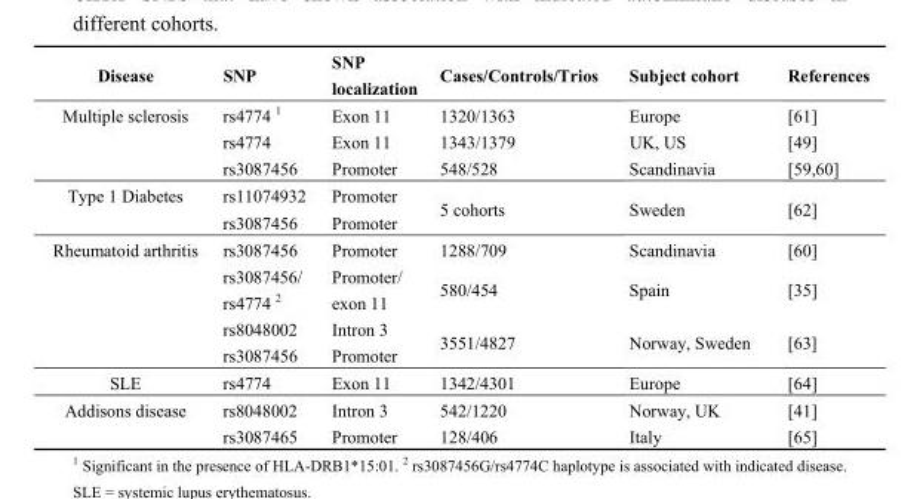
<table><thead><tr><td>Disease</td><td>SNP</td><td>SNP localization</td><td>Cases/Controls/Trios</td><td>Subject cohort</td><td>References</td></tr></thead><tbody><tr><td rowspan="3">Multiple sclerosis</td><td>rs4774 1</td><td>Exon 11</td><td>1320/1363</td><td>Europe</td><td>[61]</td></tr><tr><td>rs4774</td><td>Exon 11</td><td>1343/1379</td><td>UK, US</td><td>[49]</td></tr><tr><td>rs3087456</td><td>Promoter</td><td>548/528</td><td>Scandinavia</td><td>[59,60]</td></tr><tr><td rowspan="2">Type 1 Diabetes</td><td>rs11074932</td><td>Promoter</td><td rowspan="2">5 cohorts</td><td rowspan="2">Sweden</td><td rowspan="2">[62]</td></tr><tr><td>rs3087456</td><td>Promoter</td></tr><tr><td rowspan="4">Rheumatoid arthritis</td><td>rs3087456</td><td>Promoter</td><td>1288/709</td><td>Scandinavia</td><td>[60]</td></tr><tr><td>rs3087456/ rs4774 2</td><td>Promoter/ exon 11</td><td>580/454</td><td>Spain</td><td>[35]</td></tr><tr><td>rs8048002</td><td>Intron 3</td><td rowspan="2">3551/4827</td><td rowspan="2">Norway, Sweden</td><td rowspan="2">[63]</td></tr><tr><td>rs3087456</td><td>Promoter</td></tr><tr><td>SLE</td><td>rs4774</td><td>Exon 11</td><td>1342/4301</td><td>Europe</td><td>[64]</td></tr><tr><td rowspan="2">Addisons disease</td><td>rs8048002</td><td>Intron 3</td><td>542/1220</td><td>Norway, UK</td><td>[41]</td></tr><tr><td>rs3087465</td><td>Promoter</td><td>128/406</td><td>Italy</td><td>[65]</td></tr></tbody></table>